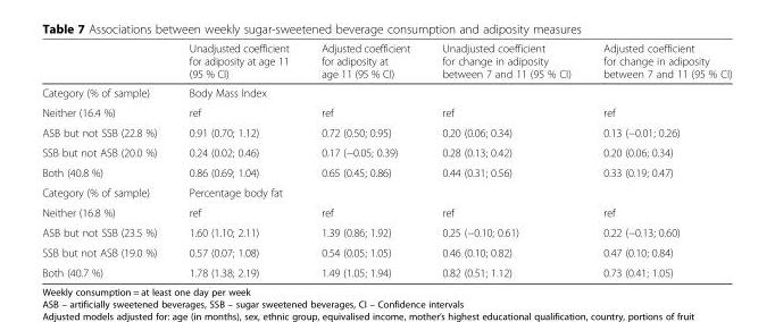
<table><thead><tr><td></td><td>Unadjusted coefficient for adiposity at age 11 (95 % CI)</td><td>Adjusted coefficient for adiposity at age 11 (95 % CI)</td><td>Unadjusted coefficient for change in adiposity between 7 and 11 (95 % CI)</td><td>Adjusted coefficient for change in adiposity between 7 and 11 (95 % CI)</td></tr></thead><tbody><tr><td>Category (% of sample)</td><td colspan="4">Body Mass Index</td></tr><tr><td>Neither (16.4 %)</td><td>ref</td><td>ref</td><td>ref</td><td>ref</td></tr><tr><td>ASB but not SSB (22.8 %)</td><td>0.91 (0.70; 1.12)</td><td>0.72 (0.50; 0.95)</td><td>0.20 (0.06; 0.34)</td><td>0.13 (−0.01; 0.26)</td></tr><tr><td>SSB but not ASB (20.0 %)</td><td>0.24 (0.02; 0.46)</td><td>0.17 (−0.05; 0.39)</td><td>0.28 (0.13; 0.42)</td><td>0.20 (0.06; 0.34)</td></tr><tr><td>Both (40.8 %)</td><td>0.86 (0.69; 1.04)</td><td>0.65 (0.45; 0.86)</td><td>0.44 (0.31; 0.56)</td><td>0.33 (0.19; 0.47)</td></tr><tr><td>Category (% of sample)</td><td colspan="4">Percentage body fat</td></tr><tr><td>Neither (16.8 %)</td><td>ref</td><td>ref</td><td>ref</td><td>ref</td></tr><tr><td>ASB but not SSB (23.5 %)</td><td>1.60 (1.10; 2.11)</td><td>1.39 (0.86; 1.92)</td><td>0.25 (−0.10; 0.61)</td><td>0.22 (−0.13; 0.60)</td></tr><tr><td>SSB but not ASB (19.0 %)</td><td>0.57 (0.07; 1.08)</td><td>0.54 (0.05; 1.05)</td><td>0.46 (0.10; 0.82)</td><td>0.47 (0.10; 0.84)</td></tr><tr><td>Both (40.7 %)</td><td>1.78 (1.38; 2.19)</td><td>1.49 (1.05; 1.94)</td><td>0.82 (0.51; 1.12)</td><td>0.73 (0.41; 1.05)</td></tr></tbody></table>